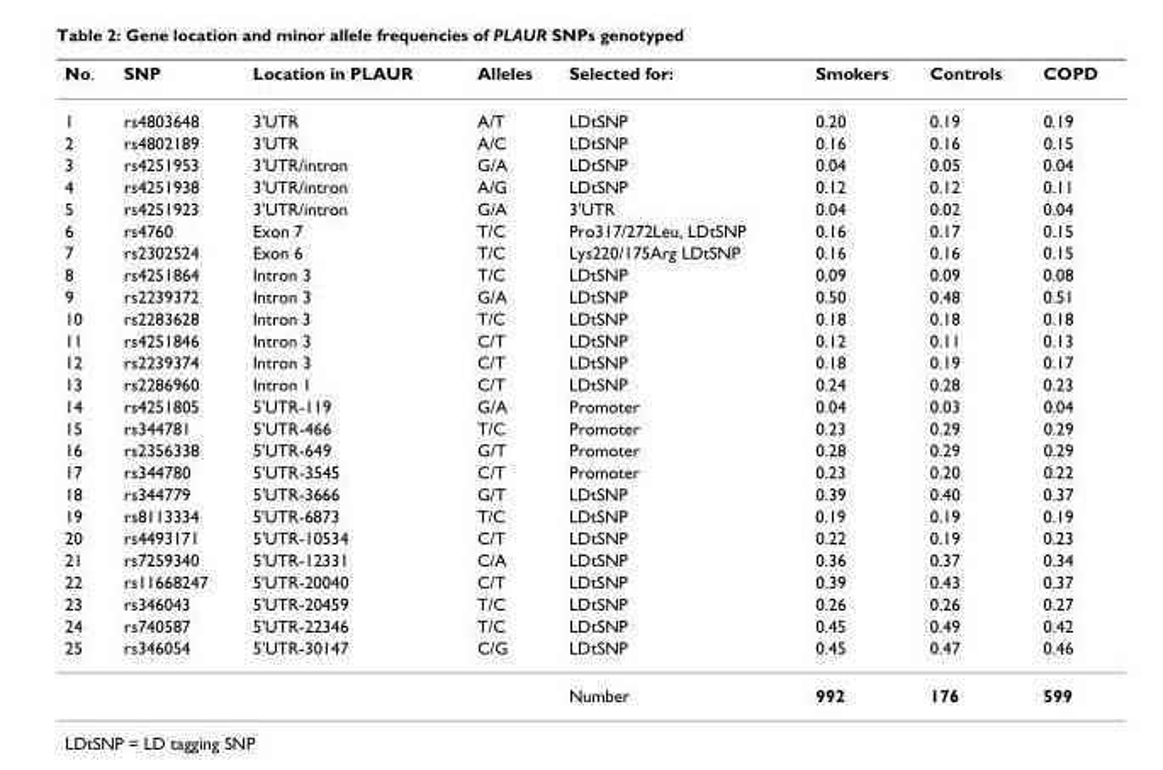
<table><thead><tr><td>No.</td><td>SNP</td><td>Location in PLAUR</td><td>Alleles</td><td>Selected for:</td><td>Smokers</td><td>Controls</td><td>COPD</td></tr></thead><tbody><tr><td>1</td><td>rs4803648</td><td>3&#x27;UTR</td><td>A/T</td><td>LDtSNP</td><td>0.20</td><td>0.19</td><td>0.19</td></tr><tr><td>2</td><td>rs4802189</td><td>3&#x27;UTR</td><td>A/C</td><td>LDtSNP</td><td>0.16</td><td>0.16</td><td>0.15</td></tr><tr><td>3</td><td>rs4251953</td><td>3&#x27;UTR/intron</td><td>G/A</td><td>LDtSNP</td><td>0.04</td><td>0.05</td><td>0.04</td></tr><tr><td>4</td><td>rs4251938</td><td>3&#x27;UTR/intron</td><td>A/G</td><td>LDtSNP</td><td>0.12</td><td>0.12</td><td>0.11</td></tr><tr><td>5</td><td>rs4251923</td><td>3&#x27;UTR/intron</td><td>G/A</td><td>3&#x27;UTR</td><td>0.04</td><td>0.02</td><td>0.04</td></tr><tr><td>6</td><td>rs4760</td><td>Exon 7</td><td>T/C</td><td>Pro317/272Leu, LDtSNP</td><td>0.16</td><td>0.17</td><td>0.15</td></tr><tr><td>7</td><td>rs2302524</td><td>Exon 6</td><td>T/C</td><td>Lys220/175Arg LDtSNP</td><td>0.16</td><td>0.16</td><td>0.15</td></tr><tr><td>8</td><td>rs4251864</td><td>Intron 3</td><td>T/C</td><td>LDtSNP</td><td>0.09</td><td>0.09</td><td>0.08</td></tr><tr><td>9</td><td>rs2239372</td><td>Intron 3</td><td>G/A</td><td>LDtSNP</td><td>0.50</td><td>0.48</td><td>0.51</td></tr><tr><td>10</td><td>rs2283628</td><td>Intron 3</td><td>T/C</td><td>LDtSNP</td><td>0.18</td><td>0.18</td><td>0.18</td></tr><tr><td>11</td><td>rs4251846</td><td>Intron 3</td><td>C/T</td><td>LDtSNP</td><td>0.12</td><td>0.11</td><td>0.13</td></tr><tr><td>12</td><td>rs2239374</td><td>Intron 3</td><td>C/T</td><td>LDtSNP</td><td>0.18</td><td>0.19</td><td>0.17</td></tr><tr><td>13</td><td>rs2286960</td><td>Intron 1</td><td>C/T</td><td>LDtSNP</td><td>0.24</td><td>0.28</td><td>0.23</td></tr><tr><td>14</td><td>rs4251805</td><td>5&#x27;UTR-119</td><td>G/A</td><td>Promoter</td><td>0.04</td><td>0.03</td><td>0.04</td></tr><tr><td>15</td><td>rs344781</td><td>5&#x27;UTR-466</td><td>T/C</td><td>Promoter</td><td>0.23</td><td>0.29</td><td>0.29</td></tr><tr><td>16</td><td>rs2356338</td><td>5&#x27;UTR-649</td><td>G/T</td><td>Promoter</td><td>0.28</td><td>0.29</td><td>0.29</td></tr><tr><td>17</td><td>rs344780</td><td>5&#x27;UTR-3545</td><td>C/T</td><td>Promoter</td><td>0.23</td><td>0.20</td><td>0.22</td></tr><tr><td>18</td><td>rs344779</td><td>5&#x27;UTR-3666</td><td>G/T</td><td>LDtSNP</td><td>0.39</td><td>0.40</td><td>0.37</td></tr><tr><td>19</td><td>rs8113334</td><td>5&#x27;UTR-6873</td><td>T/C</td><td>LDtSNP</td><td>0.19</td><td>0.19</td><td>0.19</td></tr><tr><td>20</td><td>rs4493171</td><td>5&#x27;UTR-10534</td><td>C/T</td><td>LDtSNP</td><td>0.22</td><td>0.19</td><td>0.23</td></tr><tr><td>21</td><td>rs7259340</td><td>5&#x27;UTR-12331</td><td>C/A</td><td>LDtSNP</td><td>0.36</td><td>0.37</td><td>0.34</td></tr><tr><td>22</td><td>rs11668247</td><td>5&#x27;UTR-20040</td><td>C/T</td><td>LDtSNP</td><td>0.39</td><td>0.43</td><td>0.37</td></tr><tr><td>23</td><td>rs346043</td><td>5&#x27;UTR-20459</td><td>T/C</td><td>LDtSNP</td><td>0.26</td><td>0.26</td><td>0.27</td></tr><tr><td>24</td><td>rs740587</td><td>5&#x27;UTR-22346</td><td>T/C</td><td>LDtSNP</td><td>0.45</td><td>0.49</td><td>0.42</td></tr><tr><td rowspan="2">25</td><td>rs346054</td><td>5&#x27;UTR-30147</td><td>C/G</td><td>LDtSNP</td><td>0.45</td><td>0.47</td><td>0.46</td></tr><tr><td></td><td></td><td></td><td>Number</td><td>992</td><td>176</td><td>599</td></tr></tbody></table>